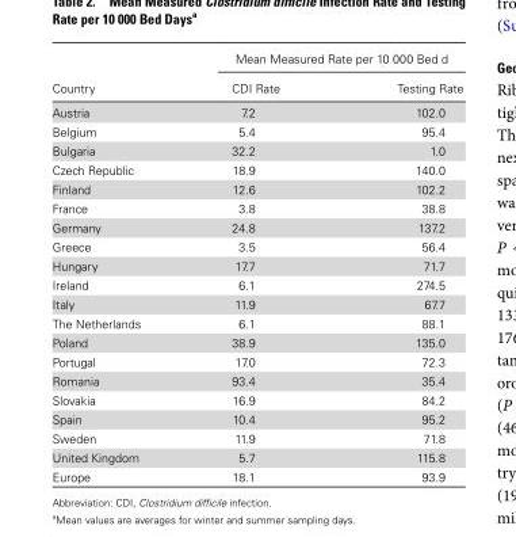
<table><thead><tr><td rowspan="2">Country</td><td colspan="2">Mean Measured Rate per 10 000 Bed d</td></tr><tr><td>CDI Rate</td><td>Testing Rate</td></tr></thead><tbody><tr><td>Austria</td><td>7.2</td><td>102.0</td></tr><tr><td>Belgium</td><td>5.4</td><td>95.4</td></tr><tr><td>Bulgaria</td><td>32.2</td><td>1.0</td></tr><tr><td>Czech Republic</td><td>18.9</td><td>140.0</td></tr><tr><td>Finland</td><td>12.6</td><td>102.2</td></tr><tr><td>France</td><td>3.8</td><td>38.8</td></tr><tr><td>Germany</td><td>24.8</td><td>137.2</td></tr><tr><td>Greece</td><td>3.5</td><td>56.4</td></tr><tr><td>Hungary</td><td>17.7</td><td>71.7</td></tr><tr><td>Ireland</td><td>6.1</td><td>274.5</td></tr><tr><td>Italy</td><td>11.9</td><td>67.7</td></tr><tr><td>The Netherlands</td><td>6.1</td><td>88.1</td></tr><tr><td>Poland</td><td>38.9</td><td>135.0</td></tr><tr><td>Portugal</td><td>17.0</td><td>72.3</td></tr><tr><td>Romania</td><td>93.4</td><td>35.4</td></tr><tr><td>Slovakia</td><td>16.9</td><td>84.2</td></tr><tr><td>Spain</td><td>10.4</td><td>95.2</td></tr><tr><td>Sweden</td><td>11.9</td><td>71.8</td></tr><tr><td>United Kingdom</td><td>5.7</td><td>115.8</td></tr><tr><td>Europe</td><td>18.1</td><td>93.9</td></tr></tbody></table>